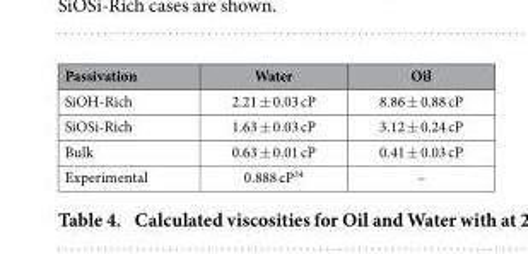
<table><thead><tr><td>Passivation</td><td>Water</td><td>Oil</td></tr></thead><tbody><tr><td>SiOH-Rich</td><td>2.21 ± 0.03 cP</td><td>8.86 ± 0.88 cP</td></tr><tr><td>SiOSi-Rich</td><td>1.63 ± 0.03 cP</td><td>3.12 ± 0.24 cP</td></tr><tr><td>Bulk</td><td>0.63 ± 0.01 cP</td><td>0.41 ± 0.03 cP</td></tr><tr><td>Experimental</td><td>0.888 cP<sup>34</sup></td><td>–</td></tr></tbody></table>